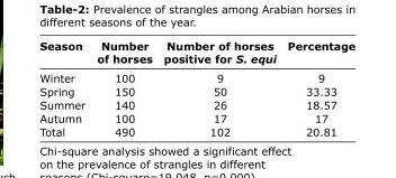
<table><thead><tr><td>Season</td><td>Number of horses</td><td>Number of horses positive for S. equi</td><td>Percentage</td></tr></thead><tbody><tr><td>Winter</td><td>100</td><td>9</td><td>9</td></tr><tr><td>Spring</td><td>150</td><td>50</td><td>33.33</td></tr><tr><td>Summer</td><td>140</td><td>26</td><td>18.57</td></tr><tr><td>Autumn</td><td>100</td><td>17</td><td>17</td></tr><tr><td>Total</td><td>490</td><td>102</td><td>20.81</td></tr></tbody></table>